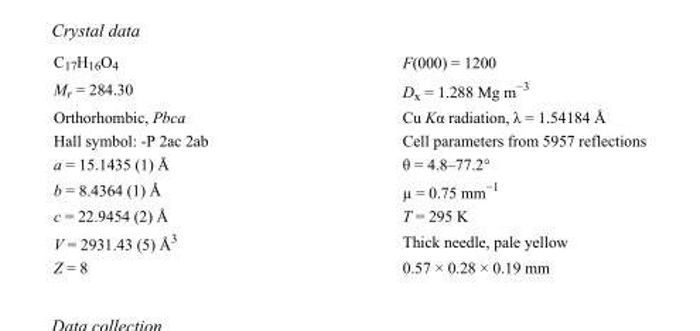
<table><tbody><tr><td>C<sub>17</sub>H<sub>16</sub>O<sub>4</sub></td><td>F(000) = 1200</td></tr><tr><td>M<sub>r</sub> = 284.30</td><td>D<sub>x</sub> = 1.288 Mg m<sup>−3</sup></td></tr><tr><td>Orthorhombic, Pbca</td><td>Cu Kα radiation, λ = 1.54184 Å</td></tr><tr><td>Hall symbol: -P 2ac 2ab</td><td>Cell parameters from 5957 reflections</td></tr><tr><td>a = 15.1435 (1) Å</td><td>θ = 4.8–77.2°</td></tr><tr><td>b = 8.4364 (1) Å</td><td>µ = 0.75 mm<sup>−1</sup></td></tr><tr><td>c = 22.9454 (2) Å</td><td>T = 295 K</td></tr><tr><td>V = 2931.43 (5) Å<sup>3</sup></td><td>Thick needle, pale yellow</td></tr><tr><td>Z = 8</td><td>0.57 × 0.28 × 0.19 mm</td></tr></tbody></table>